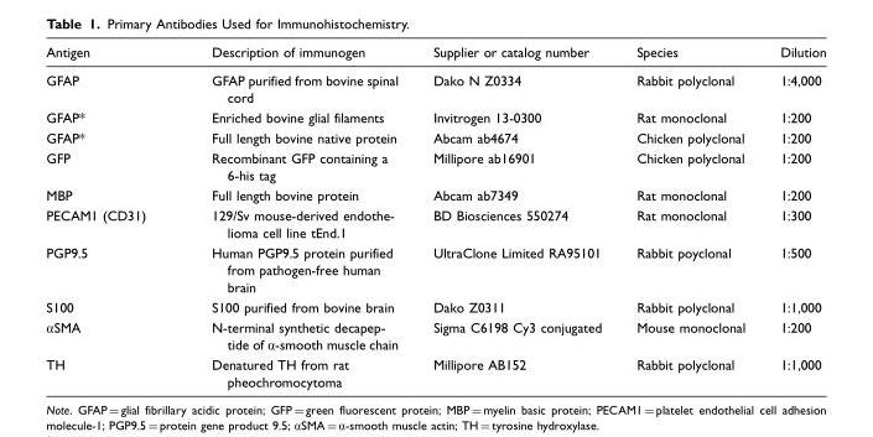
<table><thead><tr><td>Antigen</td><td>Description of immunogen</td><td>Supplier or catalog number</td><td>Species</td><td>Dilution</td></tr></thead><tbody><tr><td>GFAP</td><td>GFAP purified from bovine spinal cord</td><td>Dako N Z0334</td><td>Rabbit polyclonal</td><td>1:4,000</td></tr><tr><td>GFAP*</td><td>Enriched bovine glial filaments</td><td>Invitrogen 13-0300</td><td>Rat monoclonal</td><td>1:200</td></tr><tr><td>GFAP*</td><td>Full length bovine native protein</td><td>Abcam ab4674</td><td>Chicken polyclonal</td><td>1:200</td></tr><tr><td>GFP</td><td>Recombinant GFP containing a 6-his tag</td><td>Millipore ab16901</td><td>Chicken polyclonal</td><td>1:200</td></tr><tr><td>MBP</td><td>Full length bovine protein</td><td>Abcam ab7349</td><td>Rat monoclonal</td><td>1:200</td></tr><tr><td>PECAM1 (CD31)</td><td>129/Sv mouse-derived endothe- lioma cell line tEnd.1</td><td>BD Biosciences 550274</td><td>Rat monoclonal</td><td>1:300</td></tr><tr><td>PGP9.5</td><td>Human PGP9.5 protein purified from pathogen-free human brain</td><td>UltraClone Limited RA95101</td><td>Rabbit poyclonal</td><td>1:500</td></tr><tr><td>S100</td><td>S100 purified from bovine brain</td><td>Dako Z0311</td><td>Rabbit polyclonal</td><td>1:1,000</td></tr><tr><td>αSMA</td><td>N-terminal synthetic decapep- tide of a-smooth muscle chain</td><td>Sigma C6198 Cy3 conjugated</td><td>Mouse monoclonal</td><td>1:200</td></tr><tr><td>TH</td><td>Denatured TH from rat pheochromocytoma</td><td>Millipore AB152</td><td>Rabbit polyclonal</td><td>1:1,000</td></tr></tbody></table>